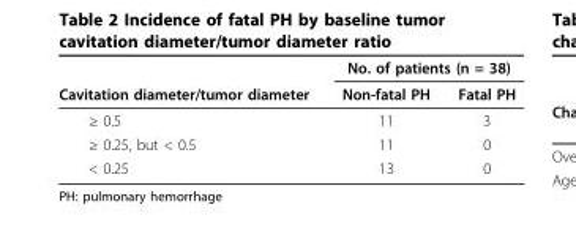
<table><thead><tr><td rowspan="2">Cavitation diameter/tumor diameter</td><td colspan="2">No. of patients (n = 38)</td></tr><tr><td>Non-fatal PH</td><td>Fatal PH</td></tr></thead><tbody><tr><td>≥ 0.5</td><td>11</td><td>3</td></tr><tr><td>≥ 0.25, but &lt; 0.5</td><td>11</td><td>0</td></tr><tr><td>&lt; 0.25</td><td>13</td><td>0</td></tr></tbody></table>